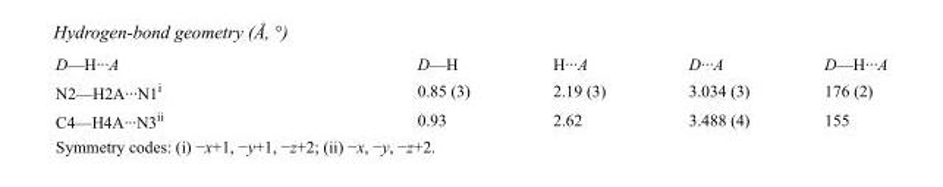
<table><tbody><tr><td>D—H···A</td><td>D—H</td><td>H···A</td><td>D···A</td><td>D—H···A</td></tr><tr><td>N2—H2A···N1<sup>i</sup></td><td>0.85 (3)</td><td>2.19 (3)</td><td>3.034 (3)</td><td>176 (2)</td></tr><tr><td>C4—H4A···N3<sup>ii</sup></td><td>0.93</td><td>2.62</td><td>3.488 (4)</td><td>155</td></tr></tbody></table>